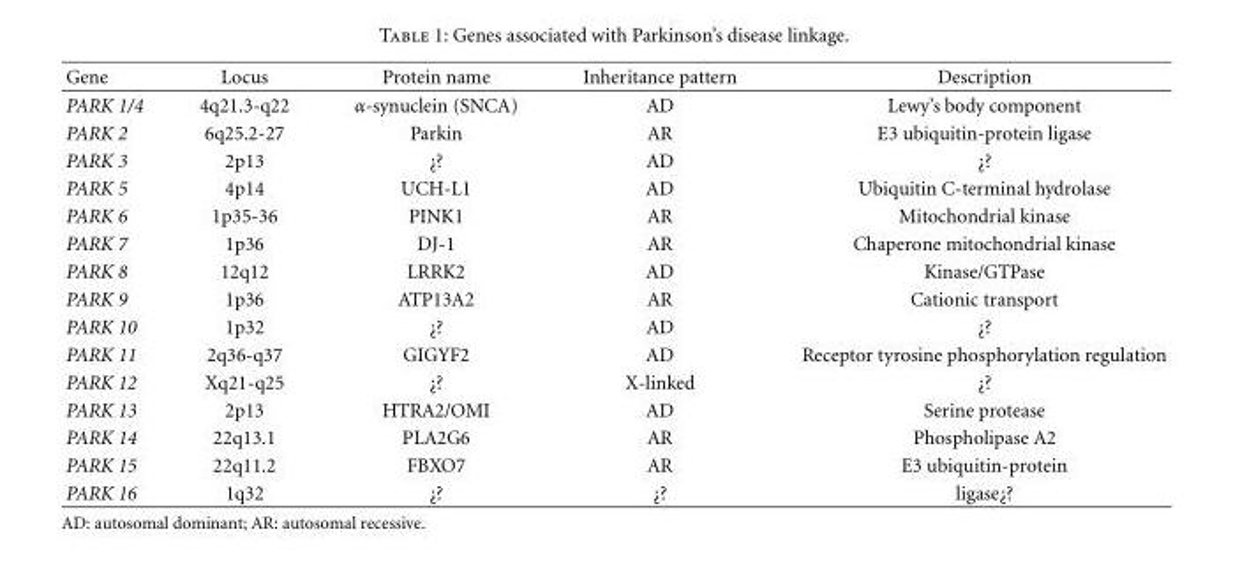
<table><thead><tr><td>Gene</td><td>Locus</td><td>Protein name</td><td>Inheritance pattern</td><td>Description</td></tr></thead><tbody><tr><td>PARK 1/4</td><td>4q21.3-q22</td><td>α-synuclein (SNCA)</td><td>AD</td><td>Lewy’s body component</td></tr><tr><td>PARK 2</td><td>6q25.2-27</td><td>Parkin</td><td>AR</td><td>E3 ubiquitin-protein ligase</td></tr><tr><td>PARK 3</td><td>2p13</td><td>¿?</td><td>AD</td><td>¿?</td></tr><tr><td>PARK 5</td><td>4p14</td><td>UCH-L1</td><td>AD</td><td>Ubiquitin C-terminal hydrolase</td></tr><tr><td>PARK 6</td><td>1p35-36</td><td>PINK1</td><td>AR</td><td>Mitochondrial kinase</td></tr><tr><td>PARK 7</td><td>1p36</td><td>DJ-1</td><td>AR</td><td>Chaperone mitochondrial kinase</td></tr><tr><td>PARK 8</td><td>12q12</td><td>LRRK2</td><td>AD</td><td>Kinase/GTPase</td></tr><tr><td>PARK 9</td><td>1p36</td><td>ATP13A2</td><td>AR</td><td>Cationic transport</td></tr><tr><td>PARK 10</td><td>1p32</td><td>¿?</td><td>AD</td><td>¿?</td></tr><tr><td>PARK 11</td><td>2q36-q37</td><td>GIGYF2</td><td>AD</td><td>Receptor tyrosine phosphorylation regulation</td></tr><tr><td>PARK 12</td><td>Xq21-q25</td><td>¿?</td><td>X-linked</td><td>¿?</td></tr><tr><td>PARK 13</td><td>2p13</td><td>HTRA2/OMI</td><td>AD</td><td>Serine protease</td></tr><tr><td>PARK 14</td><td>22q13.1</td><td>PLA2G6</td><td>AR</td><td>Phospholipase A2</td></tr><tr><td>PARK 15</td><td>22q11.2</td><td>FBXO7</td><td>AR</td><td>E3 ubiquitin-protein</td></tr><tr><td>PARK 16</td><td>1q32</td><td>¿?</td><td>¿?</td><td>ligase¿?</td></tr></tbody></table>